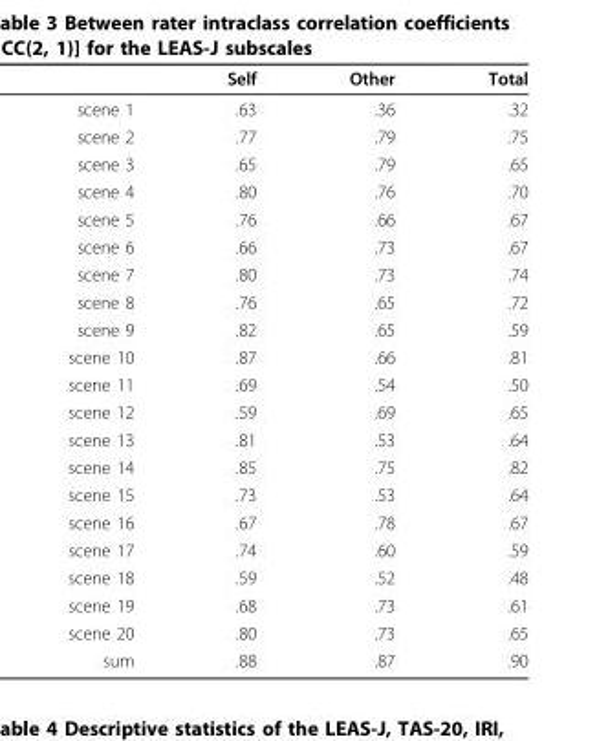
<table><thead><tr><td></td><td>Self</td><td>Other</td><td>Total</td></tr></thead><tbody><tr><td>scene 1</td><td>.63</td><td>.36</td><td>.32</td></tr><tr><td>scene 2</td><td>.77</td><td>.79</td><td>.75</td></tr><tr><td>scene 3</td><td>.65</td><td>.79</td><td>.65</td></tr><tr><td>scene 4</td><td>.80</td><td>.76</td><td>.70</td></tr><tr><td>scene 5</td><td>.76</td><td>.66</td><td>.67</td></tr><tr><td>scene 6</td><td>.66</td><td>.73</td><td>.67</td></tr><tr><td>scene 7</td><td>.80</td><td>.73</td><td>.74</td></tr><tr><td>scene 8</td><td>.76</td><td>.65</td><td>.72</td></tr><tr><td>scene 9</td><td>.82</td><td>.65</td><td>.59</td></tr><tr><td>scene 10</td><td>.87</td><td>.66</td><td>.81</td></tr><tr><td>scene 11</td><td>.69</td><td>.54</td><td>.50</td></tr><tr><td>scene 12</td><td>.59</td><td>.69</td><td>.65</td></tr><tr><td>scene 13</td><td>.81</td><td>.53</td><td>.64</td></tr><tr><td>scene 14</td><td>.85</td><td>.75</td><td>.82</td></tr><tr><td>scene 15</td><td>.73</td><td>.53</td><td>.64</td></tr><tr><td>scene 16</td><td>.67</td><td>.78</td><td>.67</td></tr><tr><td>scene 17</td><td>.74</td><td>.60</td><td>.59</td></tr><tr><td>scene 18</td><td>.59</td><td>.52</td><td>.48</td></tr><tr><td>scene 19</td><td>.68</td><td>.73</td><td>.61</td></tr><tr><td>scene 20</td><td>.80</td><td>.73</td><td>.65</td></tr><tr><td>sum</td><td>.88</td><td>.87</td><td>.90</td></tr></tbody></table>